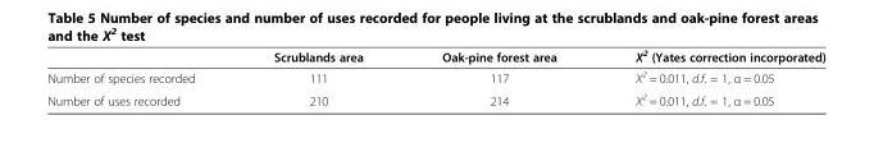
<table><thead><tr><td></td><td>Scrublands area</td><td>Oak-pine forest area</td><td>X<sup>2</sup> (Yates correction incorporated)</td></tr></thead><tbody><tr><td>Number of species recorded</td><td>111</td><td>117</td><td>X<sup>2</sup> = 0.011, d.f. = 1, α = 0.05</td></tr><tr><td>Number of uses recorded</td><td>210</td><td>214</td><td>X<sup>2</sup> = 0.011, d.f. = 1, α = 0.05</td></tr></tbody></table>